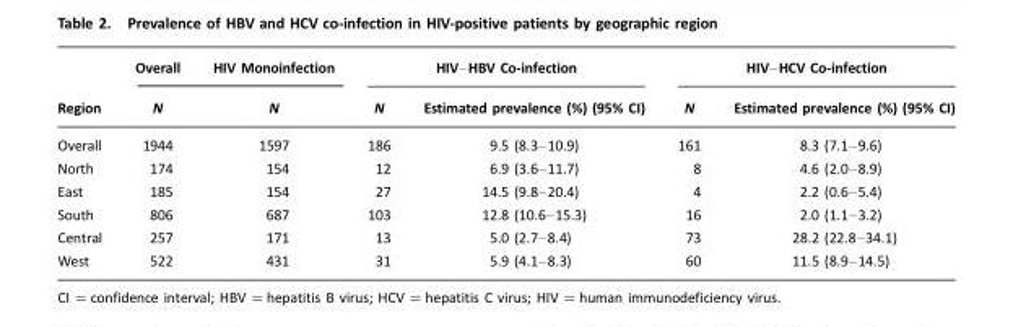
<table><thead><tr><td rowspan="2">Region</td><td rowspan="2">Overall N</td><td rowspan="2">HIV Monoinfection N</td><td colspan="2">HIV–HBV Co-infection</td><td colspan="2">HIV–HCV Co-infection</td></tr><tr><td>N</td><td>Estimated prevalence (%) (95% CI)</td><td>N</td><td>Estimated prevalence (%) (95% CI)</td></tr></thead><tbody><tr><td>Overall</td><td>1944</td><td>1597</td><td>186</td><td>9.5 (8.3–10.9)</td><td>161</td><td>8.3 (7.1–9.6)</td></tr><tr><td>North</td><td>174</td><td>154</td><td>12</td><td>6.9 (3.6–11.7)</td><td>8</td><td>4.6 (2.0–8.9)</td></tr><tr><td>East</td><td>185</td><td>154</td><td>27</td><td>14.5 (9.8–20.4)</td><td>4</td><td>2.2 (0.6–5.4)</td></tr><tr><td>South</td><td>806</td><td>687</td><td>103</td><td>12.8 (10.6–15.3)</td><td>16</td><td>2.0 (1.1–3.2)</td></tr><tr><td>Central</td><td>257</td><td>171</td><td>13</td><td>5.0 (2.7–8.4)</td><td>73</td><td>28.2 (22.8–34.1)</td></tr><tr><td>West</td><td>522</td><td>431</td><td>31</td><td>5.9 (4.1–8.3)</td><td>60</td><td>11.5 (8.9–14.5)</td></tr></tbody></table>